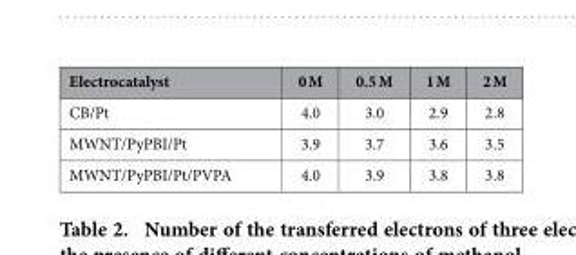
<table><thead><tr><td>Electrocatalyst</td><td>0 M</td><td>0.5 M</td><td>1 M</td><td>2 M</td></tr></thead><tbody><tr><td>CB/Pt</td><td>4.0</td><td>3.0</td><td>2.9</td><td>2.8</td></tr><tr><td>MWNT/PyPBI/Pt</td><td>3.9</td><td>3.7</td><td>3.6</td><td>3.5</td></tr><tr><td>MWNT/PyPBI/Pt/PVPA</td><td>4.0</td><td>3.9</td><td>3.8</td><td>3.8</td></tr></tbody></table>